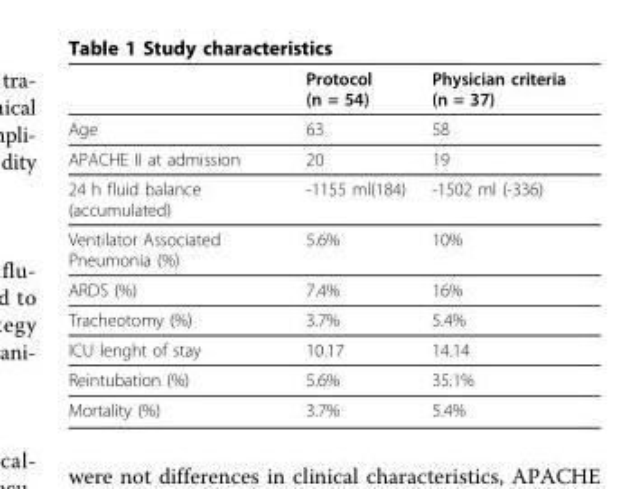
<table><thead><tr><td></td><td>Protocol (n = 54)</td><td>Physician criteria (n = 37)</td></tr></thead><tbody><tr><td>Age</td><td>63</td><td>58</td></tr><tr><td>APACHE II at admission</td><td>20</td><td>19</td></tr><tr><td>24 h fluid balance (accumulated)</td><td>-1155 ml(184)</td><td>-1502 ml (-336)</td></tr><tr><td>Ventilator Associated Pneumonia (%)</td><td>5.6%</td><td>10%</td></tr><tr><td>ARDS (%)</td><td>7.4%</td><td>16%</td></tr><tr><td>Tracheotomy (%)</td><td>3.7%</td><td>5.4%</td></tr><tr><td>ICU lenght of stay</td><td>10.17</td><td>14.14</td></tr><tr><td>Reintubation (%)</td><td>5.6%</td><td>35.1%</td></tr><tr><td>Mortality (%)</td><td>3.7%</td><td>5.4%</td></tr></tbody></table>